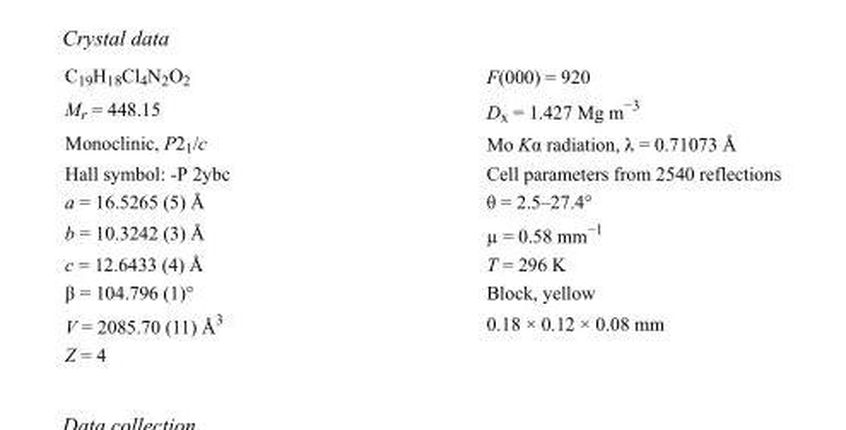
<table><tbody><tr><td>C<sub>19</sub>H<sub>18</sub>Cl<sub>4</sub>N<sub>2</sub>O<sub>2</sub></td><td>F(000) = 920</td></tr><tr><td>M<sub>r</sub> = 448.15</td><td>D<sub>x</sub> = 1.427 Mg m<sup>−3</sup></td></tr><tr><td>Monoclinic, P2<sub>1</sub>/c</td><td>Mo Kα radiation, λ = 0.71073 Å</td></tr><tr><td>Hall symbol: -P 2ybc</td><td>Cell parameters from 2540 reflections</td></tr><tr><td>a = 16.5265 (5) Å</td><td>θ = 2.5–27.4°</td></tr><tr><td>b = 10.3242 (3) Å</td><td>µ = 0.58 mm<sup>−1</sup></td></tr><tr><td>c = 12.6433 (4) Å</td><td>T = 296 K</td></tr><tr><td>β = 104.796 (1)°</td><td>Block, yellow</td></tr><tr><td>V = 2085.70 (11) Å<sup>3</sup></td><td>0.18 × 0.12 × 0.08 mm</td></tr><tr><td>Z = 4</td><td></td></tr></tbody></table>